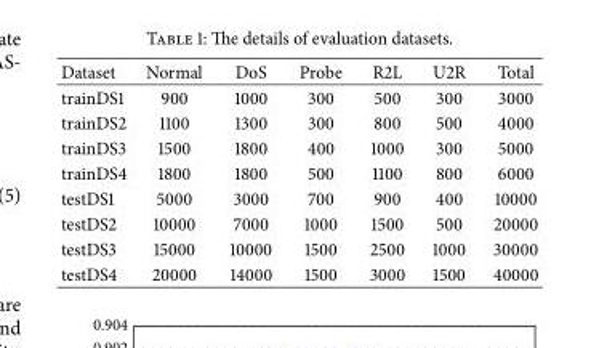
<table><thead><tr><td>Dataset</td><td>Normal</td><td>DoS</td><td>Probe</td><td>R2L</td><td>U2R</td><td>Total</td></tr></thead><tbody><tr><td>trainDS1</td><td>900</td><td>1000</td><td>300</td><td>500</td><td>300</td><td>3000</td></tr><tr><td>trainDS2</td><td>1100</td><td>1300</td><td>300</td><td>800</td><td>500</td><td>4000</td></tr><tr><td>trainDS3</td><td>1500</td><td>1800</td><td>400</td><td>1000</td><td>300</td><td>5000</td></tr><tr><td>trainDS4</td><td>1800</td><td>1800</td><td>500</td><td>1100</td><td>800</td><td>6000</td></tr><tr><td>testDS1</td><td>5000</td><td>3000</td><td>700</td><td>900</td><td>400</td><td>10000</td></tr><tr><td>testDS2</td><td>10000</td><td>7000</td><td>1000</td><td>1500</td><td>500</td><td>20000</td></tr><tr><td>testDS3</td><td>15000</td><td>10000</td><td>1500</td><td>2500</td><td>1000</td><td>30000</td></tr><tr><td>testDS4</td><td>20000</td><td>14000</td><td>1500</td><td>3000</td><td>1500</td><td>40000</td></tr></tbody></table>